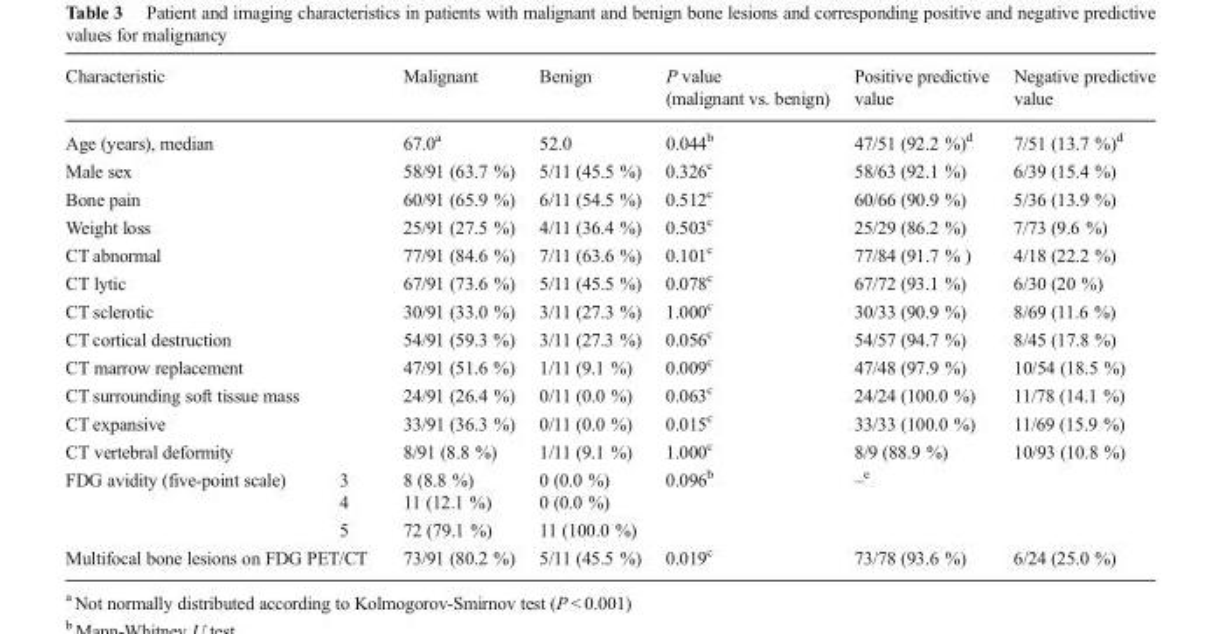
<table><thead><tr><td colspan="2">Characteristic</td><td>Malignant</td><td>Benign</td><td>P value (malignant vs. benign)</td><td>Positive predictive value</td><td>Negative predictive value</td></tr></thead><tbody><tr><td colspan="2">Age (years), median</td><td>67.0<sup>a</sup></td><td>52.0</td><td>0.044<sup>b</sup></td><td>47/51 (92.2 %)<sup>d</sup></td><td>7/51 (13.7 %)<sup>d</sup></td></tr><tr><td colspan="2">Male sex</td><td>58/91 (63.7 %)</td><td>5/11 (45.5 %)</td><td>0.326<sup>c</sup></td><td>58/63 (92.1 %)</td><td>6/39 (15.4 %)</td></tr><tr><td colspan="2">Bone pain</td><td>60/91 (65.9 %)</td><td>6/11 (54.5 %)</td><td>0.512<sup>c</sup></td><td>60/66 (90.9 %)</td><td>5/36 (13.9 %)</td></tr><tr><td colspan="2">Weight loss</td><td>25/91 (27.5 %)</td><td>4/11 (36.4 %)</td><td>0.503<sup>c</sup></td><td>25/29 (86.2 %)</td><td>7/73 (9.6 %)</td></tr><tr><td colspan="2">CT abnormal</td><td>77/91 (84.6 %)</td><td>7/11 (63.6 %)</td><td>0.101<sup>c</sup></td><td>77/84 (91.7 % )</td><td>4/18 (22.2 %)</td></tr><tr><td colspan="2">CT lytic</td><td>67/91 (73.6 %)</td><td>5/11 (45.5 %)</td><td>0.078<sup>c</sup></td><td>67/72 (93.1 %)</td><td>6/30 (20 %)</td></tr><tr><td colspan="2">CT sclerotic</td><td>30/91 (33.0 %)</td><td>3/11 (27.3 %)</td><td>1.000<sup>c</sup></td><td>30/33 (90.9 %)</td><td>8/69 (11.6 %)</td></tr><tr><td colspan="2">CT cortical destruction</td><td>54/91 (59.3 %)</td><td>3/11 (27.3 %)</td><td>0.056<sup>c</sup></td><td>54/57 (94.7 %)</td><td>8/45 (17.8 %)</td></tr><tr><td colspan="2">CT marrow replacement</td><td>47/91 (51.6 %)</td><td>1/11 (9.1 %)</td><td>0.009<sup>c</sup></td><td>47/48 (97.9 %)</td><td>10/54 (18.5 %)</td></tr><tr><td colspan="2">CT surrounding soft tissue mass</td><td>24/91 (26.4 %)</td><td>0/11 (0.0 %)</td><td>0.063<sup>c</sup></td><td>24/24 (100.0 %)</td><td>11/78 (14.1 %)</td></tr><tr><td colspan="2">CT expansive</td><td>33/91 (36.3 %)</td><td>0/11 (0.0 %)</td><td>0.015<sup>c</sup></td><td>33/33 (100.0 %)</td><td>11/69 (15.9 %)</td></tr><tr><td colspan="2">CT vertebral deformity</td><td>8/91 (8.8 %)</td><td>1/11 (9.1 %)</td><td>1.000<sup>c</sup></td><td>8/9 (88.9 %)</td><td>10/93 (10.8 %)</td></tr><tr><td rowspan="3">FDG avidity (five-point scale)</td><td>3</td><td>8 (8.8 %)</td><td>0 (0.0 %)</td><td rowspan="3">0.096<sup>b</sup></td><td rowspan="3" colspan="2">–<sup>e</sup></td></tr><tr><td>4</td><td>11 (12.1 %)</td><td>0 (0.0 %)</td></tr><tr><td>5</td><td>72 (79.1 %)</td><td>11 (100.0 %)</td></tr><tr><td colspan="2">Multifocal bone lesions on FDG PET/CT</td><td>73/91 (80.2 %)</td><td>5/11 (45.5 %)</td><td>0.019<sup>c</sup></td><td>73/78 (93.6 %)</td><td>6/24 (25.0 %)</td></tr></tbody></table>